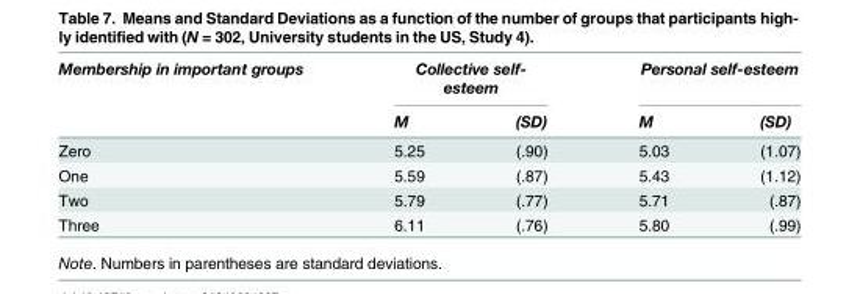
<table><thead><tr><td rowspan="2">Membership in important groups</td><td colspan="2">Collective self- esteem</td><td colspan="2">Personal self-esteem</td></tr><tr><td>M</td><td>(SD)</td><td>M</td><td>(SD)</td></tr></thead><tbody><tr><td>Zero</td><td>5.25</td><td>(.90)</td><td>5.03</td><td>(1.07)</td></tr><tr><td>One</td><td>5.59</td><td>(.87)</td><td>5.43</td><td>(1.12)</td></tr><tr><td>Two</td><td>5.79</td><td>(.77)</td><td>5.71</td><td>(.87)</td></tr><tr><td>Three</td><td>6.11</td><td>(.76)</td><td>5.80</td><td>(.99)</td></tr></tbody></table>